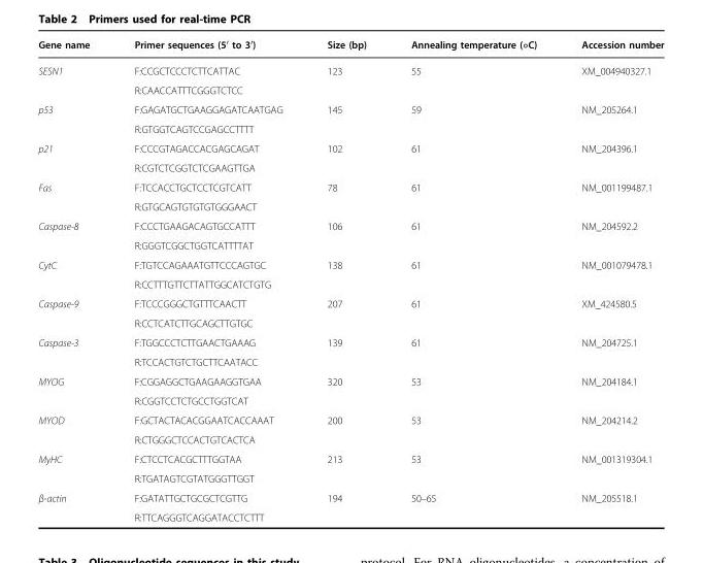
<table><thead><tr><td>Gene name</td><td>Primer sequences (5′ to 3′)</td><td>Size (bp)</td><td>Annealing temperature (◦C)</td><td>Accession number</td></tr></thead><tbody><tr><td rowspan="2">SESN1</td><td>F:CCGCTCCCTCTTCATTAC</td><td rowspan="2">123</td><td rowspan="2">55</td><td rowspan="2">XM_004940327.1</td></tr><tr><td>R:CAACCATTTCGGGTCTCC</td></tr><tr><td rowspan="2">p53</td><td>F:GAGATGCTGAAGGAGATCAATGAG</td><td rowspan="2">145</td><td rowspan="2">59</td><td rowspan="2">NM_205264.1</td></tr><tr><td>R:GTGGTCAGTCCGAGCCTTTT</td></tr><tr><td rowspan="2">p21</td><td>F:CCCGTAGACCACGAGCAGAT</td><td rowspan="2">102</td><td rowspan="2">61</td><td rowspan="2">NM_204396.1</td></tr><tr><td>R:CGTCTCGGTCTCGAAGTTGA</td></tr><tr><td rowspan="2">Fas</td><td>F:TCCACCTGCTCCTCGTCATT</td><td rowspan="2">78</td><td rowspan="2">61</td><td rowspan="2">NM_001199487.1</td></tr><tr><td>R:GTGCAGTGTGTGTGGGAACT</td></tr><tr><td rowspan="2">Caspase-8</td><td>F:CCCTGAAGACAGTGCCATTT</td><td rowspan="2">106</td><td rowspan="2">61</td><td rowspan="2">NM_204592.2</td></tr><tr><td>R:GGGTCGGCTGGTCATTTTAT</td></tr><tr><td rowspan="2">CytC</td><td>F:TGTCCAGAAATGTTCCCAGTGC</td><td rowspan="2">138</td><td rowspan="2">61</td><td rowspan="2">NM_001079478.1</td></tr><tr><td>R:CCTTTGTTCTTATTGGCATCTGTG</td></tr><tr><td rowspan="2">Caspase-9</td><td>F:TCCCGGGCTGTTTCAACTT</td><td rowspan="2">207</td><td rowspan="2">61</td><td rowspan="2">XM_424580.5</td></tr><tr><td>R:CCTCATCTTGCAGCTTGTGC</td></tr><tr><td rowspan="2">Caspase-3</td><td>F:TGGCCCTCTTGAACTGAAAG</td><td rowspan="2">139</td><td rowspan="2">61</td><td rowspan="2">NM_204725.1</td></tr><tr><td>R:TCCACTGTCTGCTTCAATACC</td></tr><tr><td rowspan="2">MYOG</td><td>F:CGGAGGCTGAAGAAGGTGAA</td><td rowspan="2">320</td><td rowspan="2">53</td><td rowspan="2">NM_204184.1</td></tr><tr><td>R:CGGTCCTCTGCCTGGTCAT</td></tr><tr><td rowspan="2">MYOD</td><td>F:GCTACTACACGGAATCACCAAAT</td><td rowspan="2">200</td><td rowspan="2">53</td><td rowspan="2">NM_204214.2</td></tr><tr><td>R:CTGGGCTCCACTGTCACTCA</td></tr><tr><td rowspan="2">MyHC</td><td>F:CTCCTCACGCTTTGGTAA</td><td rowspan="2">213</td><td rowspan="2">53</td><td rowspan="2">NM_001319304.1</td></tr><tr><td>R:TGATAGTCGTATGGGTTGGT</td></tr><tr><td rowspan="2">β-actin</td><td>F:GATATTGCTGCGCTCGTTG</td><td rowspan="2">194</td><td rowspan="2">50–65</td><td rowspan="2">NM_205518.1</td></tr><tr><td>R:TTCAGGGTCAGGATACCTCTTT</td></tr></tbody></table>